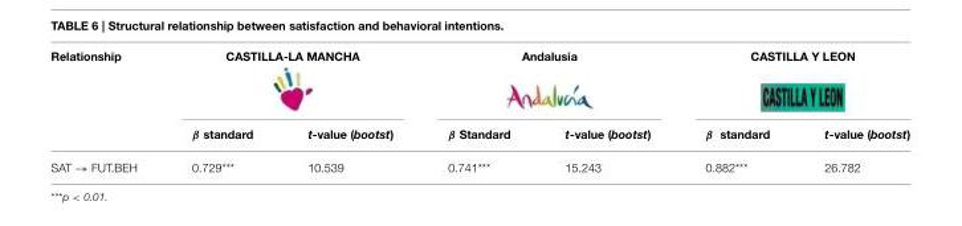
<table><thead><tr><td rowspan="2">Relationship</td><td colspan="2">CASTILLA-LA MANCHA</td><td colspan="2">Andalusia</td><td colspan="2">CASTILLA Y LEON</td></tr><tr><td>β standard</td><td>t-value (bootst)</td><td>β Standard</td><td>t-value (bootst)</td><td>β standard</td><td>t-value (bootst)</td></tr></thead><tbody><tr><td>SAT → FUT.BEH</td><td>0.729***</td><td>10.539</td><td>0.741***</td><td>15.243</td><td>0.882***</td><td>26.782</td></tr></tbody></table>